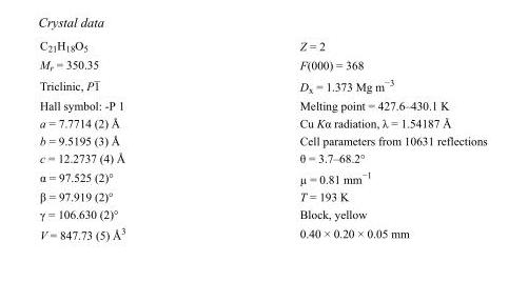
<table><tbody><tr><td>C<sub>21</sub>H<sub>18</sub>O<sub>5</sub></td><td>Z = 2</td></tr><tr><td>M<sub>r</sub> = 350.35</td><td>F(000) = 368</td></tr><tr><td>Triclinic, P1</td><td>D<sub>x</sub> = 1.373 Mg m<sup>−3</sup></td></tr><tr><td>Hall symbol: -P 1</td><td>Melting point = 427.6–430.1 K</td></tr><tr><td>a = 7.7714 (2) Å</td><td>Cu Kα radiation, λ = 1.54187 Å</td></tr><tr><td>b = 9.5195 (3) Å</td><td>Cell parameters from 10631 reflections</td></tr><tr><td>c = 12.2737 (4) Å</td><td>θ = 3.7–68.2°</td></tr><tr><td>α = 97.525 (2)°</td><td>µ = 0.81 mm<sup>−1</sup></td></tr><tr><td>β = 97.919 (2)°</td><td>T = 193 K</td></tr><tr><td>γ = 106.630 (2)°</td><td>Block, yellow</td></tr><tr><td>V = 847.73 (5) Å<sup>3</sup></td><td>0.40 × 0.20 × 0.05 mm</td></tr></tbody></table>